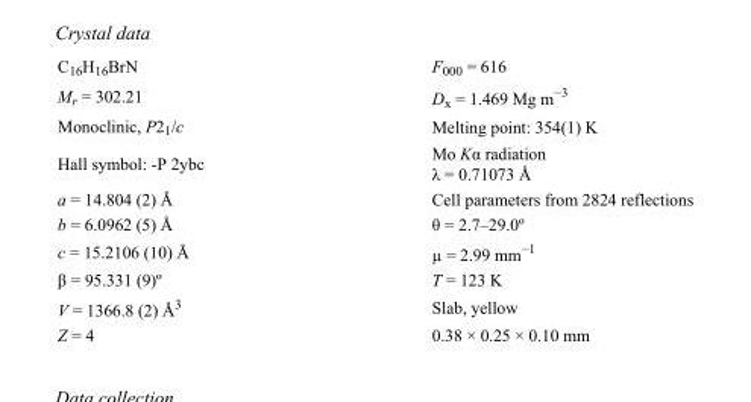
<table><tbody><tr><td>C<sub>16</sub>H<sub>16</sub>BrN</td><td>F000 = 616</td></tr><tr><td>M<sub>r</sub> = 302.21</td><td>D<sub>x</sub> = 1.469 Mg m<sup>−3</sup></td></tr><tr><td>Monoclinic, P2<sub>1</sub>/c</td><td>Melting point: 354(1) K</td></tr><tr><td>Hall symbol: -P 2ybc</td><td>Mo Kα radiation λ = 0.71073 Å</td></tr><tr><td>a = 14.804 (2) Å</td><td>Cell parameters from 2824 reflections</td></tr><tr><td>b = 6.0962 (5) Å</td><td>θ = 2.7–29.0º</td></tr><tr><td>c = 15.2106 (10) Å</td><td>µ = 2.99 mm<sup>−1</sup></td></tr><tr><td>β = 95.331 (9)º</td><td>T = 123 K</td></tr><tr><td>V = 1366.8 (2) Å<sup>3</sup></td><td>Slab, yellow</td></tr><tr><td>Z = 4</td><td>0.38 × 0.25 × 0.10 mm</td></tr></tbody></table>